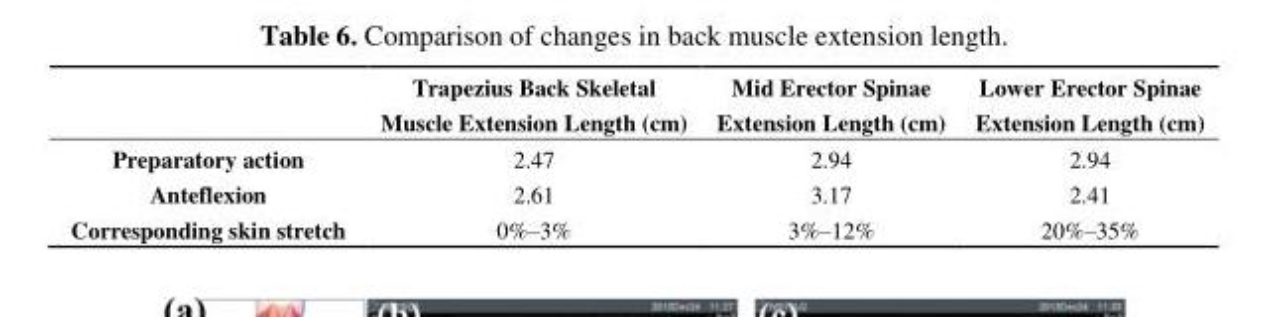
<table><thead><tr><td></td><td>Trapezius Back Skeletal Muscle Extension Length (cm)</td><td>Mid Erector Spinae Extension Length (cm)</td><td>Lower Erector Spinae Extension Length (cm)</td></tr></thead><tbody><tr><td>Preparatory action</td><td>2.47</td><td>2.94</td><td>2.94</td></tr><tr><td>Anteflexion</td><td>2.61</td><td>3.17</td><td>2.41</td></tr><tr><td>Corresponding skin stretch</td><td>0%–3%</td><td>3%–12%</td><td>20%–35%</td></tr></tbody></table>